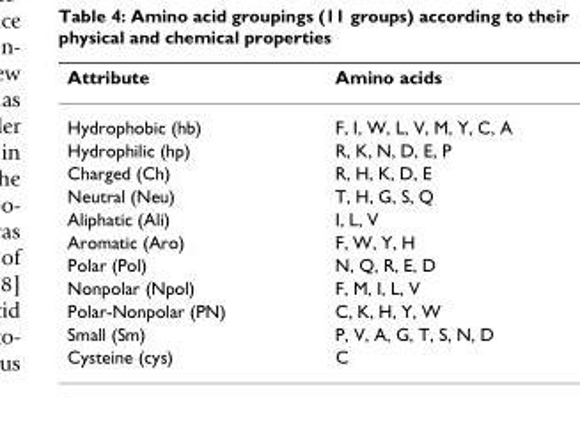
<table><thead><tr><td>Attribute</td><td>Amino acids</td></tr></thead><tbody><tr><td>Hydrophobic (hb)</td><td>F, I, W, L, V, M, Y, C, A</td></tr><tr><td>Hydrophilic (hp)</td><td>R, K, N, D, E, P</td></tr><tr><td>Charged (Ch)</td><td>R, H, K, D, E</td></tr><tr><td>Neutral (Neu)</td><td>T, H, G, S, Q</td></tr><tr><td>Aliphatic (Ali)</td><td>I, L, V</td></tr><tr><td>Aromatic (Aro)</td><td>F, W, Y, H</td></tr><tr><td>Polar (Pol)</td><td>N, Q, R, E, D</td></tr><tr><td>Nonpolar (Npol)</td><td>F, M, I, L, V</td></tr><tr><td>Polar-Nonpolar (PN)</td><td>C, K, H, Y, W</td></tr><tr><td>Small (Sm)</td><td>P, V, A, G, T, S, N, D</td></tr><tr><td>Cysteine (cys)</td><td>C</td></tr></tbody></table>